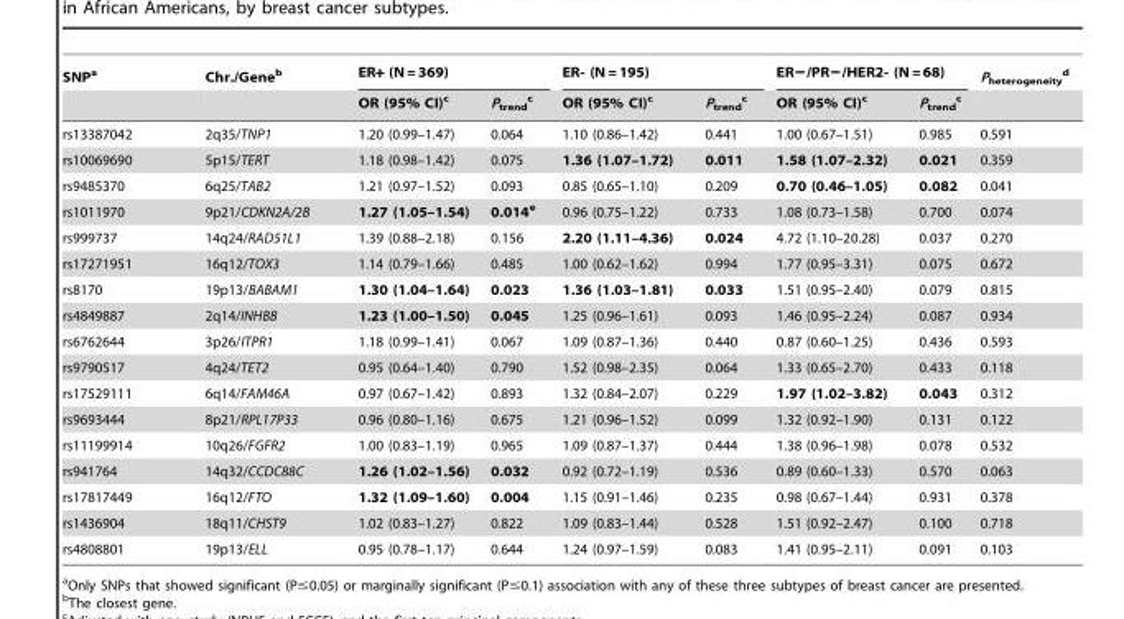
<table><thead><tr><td rowspan="2">SNP<sup>a</sup></td><td rowspan="2">Chr./Gene<sup>b</sup></td><td colspan="2">ER+ (N = 369)</td><td colspan="2">ER- (N = 195)</td><td colspan="2">ER−/PR−/HER2- (N = 68)</td><td rowspan="2">Pheterogeneity</td></tr><tr><td>OR (95% CI)<sup>c</sup></td><td>P<sub>trend</sub> c</td><td>OR (95% CI)<sup>c</sup></td><td>P<sub>trend</sub> c</td><td>OR (95% CI)<sup>c</sup></td><td>P<sub>trend</sub> c</td></tr></thead><tbody><tr><td>rs13387042</td><td>2q35/TNP1</td><td>1.20 (0.99–1.47)</td><td>0.064</td><td>1.10 (0.86–1.42)</td><td>0.441</td><td>1.00 (0.67–1.51)</td><td>0.985</td><td>0.591</td></tr><tr><td>rs10069690</td><td>5p15/TERT</td><td>1.18 (0.98–1.42)</td><td>0.075</td><td>1.36 (1.07–1.72)</td><td>0.011</td><td>1.58 (1.07–2.32)</td><td>0.021</td><td>0.359</td></tr><tr><td>rs9485370</td><td>6q25/TAB2</td><td>1.21 (0.97–1.52)</td><td>0.093</td><td>0.85 (0.65–1.10)</td><td>0.209</td><td>0.70 (0.46–1.05)</td><td>0.082</td><td>0.041</td></tr><tr><td>rs1011970</td><td>9p21/CDKN2A/2B</td><td>1.27 (1.05–1.54)</td><td>0.014e</td><td>0.96 (0.75–1.22)</td><td>0.733</td><td>1.08 (0.73–1.58)</td><td>0.700</td><td>0.074</td></tr><tr><td>rs999737</td><td>14q24/RAD51L1</td><td>1.39 (0.88–2.18)</td><td>0.156</td><td>2.20 (1.11–4.36)</td><td>0.024</td><td>4.72 (1.10–20.28)</td><td>0.037</td><td>0.270</td></tr><tr><td>rs17271951</td><td>16q12/TOX3</td><td>1.14 (0.79–1.66)</td><td>0.485</td><td>1.00 (0.62–1.62)</td><td>0.994</td><td>1.77 (0.95–3.31)</td><td>0.075</td><td>0.672</td></tr><tr><td>rs8170</td><td>19p13/BABAM1</td><td>1.30 (1.04–1.64)</td><td>0.023</td><td>1.36 (1.03–1.81)</td><td>0.033</td><td>1.51 (0.95–2.40)</td><td>0.079</td><td>0.815</td></tr><tr><td>rs4849887</td><td>2q14/INHBB</td><td>1.23 (1.00–1.50)</td><td>0.045</td><td>1.25 (0.96–1.61)</td><td>0.093</td><td>1.46 (0.95–2.24)</td><td>0.087</td><td>0.934</td></tr><tr><td>rs6762644</td><td>3p26/ITPR1</td><td>1.18 (0.99–1.41)</td><td>0.067</td><td>1.09 (0.87–1.36)</td><td>0.440</td><td>0.87 (0.60–1.25)</td><td>0.436</td><td>0.593</td></tr><tr><td>rs9790517</td><td>4q24/TET2</td><td>0.95 (0.64–1.40)</td><td>0.790</td><td>1.52 (0.98–2.35)</td><td>0.064</td><td>1.33 (0.65–2.70)</td><td>0.433</td><td>0.118</td></tr><tr><td>rs17529111</td><td>6q14/FAM46A</td><td>0.97 (0.67–1.42)</td><td>0.893</td><td>1.32 (0.84–2.07)</td><td>0.229</td><td>1.97 (1.02–3.82)</td><td>0.043</td><td>0.312</td></tr><tr><td>rs9693444</td><td>8p21/RPL17P33</td><td>0.96 (0.80–1.16)</td><td>0.675</td><td>1.21 (0.96–1.52)</td><td>0.099</td><td>1.32 (0.92–1.90)</td><td>0.131</td><td>0.122</td></tr><tr><td>rs11199914</td><td>10q26/FGFR2</td><td>1.00 (0.83–1.19)</td><td>0.965</td><td>1.09 (0.87–1.37)</td><td>0.444</td><td>1.38 (0.96–1.98)</td><td>0.078</td><td>0.532</td></tr><tr><td>rs941764</td><td>14q32/CCDC88C</td><td>1.26 (1.02–1.56)</td><td>0.032</td><td>0.92 (0.72–1.19)</td><td>0.536</td><td>0.89 (0.60–1.33)</td><td>0.570</td><td>0.063</td></tr><tr><td>rs17817449</td><td>16q12/FTO</td><td>1.32 (1.09–1.60)</td><td>0.004</td><td>1.15 (0.91–1.46)</td><td>0.235</td><td>0.98 (0.67–1.44)</td><td>0.931</td><td>0.378</td></tr><tr><td>rs1436904</td><td>18q11/CHST9</td><td>1.02 (0.83–1.27)</td><td>0.822</td><td>1.09 (0.83–1.44)</td><td>0.528</td><td>1.51 (0.92–2.47)</td><td>0.100</td><td>0.718</td></tr><tr><td>rs4808801</td><td>19p13/ELL</td><td>0.95 (0.78–1.17)</td><td>0.644</td><td>1.24 (0.97–1.59)</td><td>0.083</td><td>1.41 (0.95–2.11)</td><td>0.091</td><td>0.103</td></tr></tbody></table>